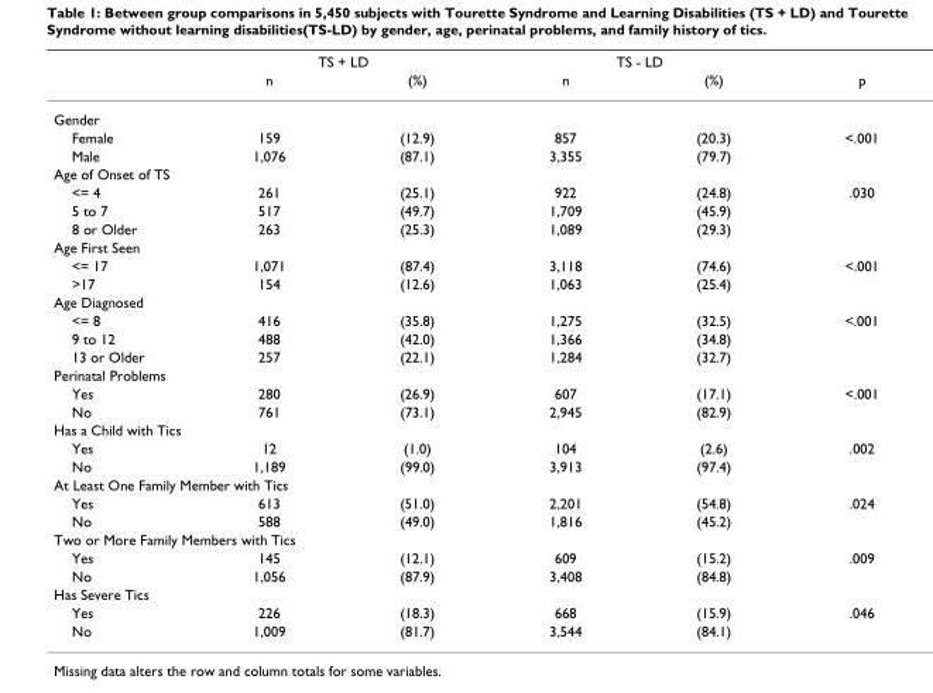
<table><thead><tr><td rowspan="2"></td><td colspan="2">TS + LD</td><td colspan="2">TS - LD</td><td rowspan="2">p</td></tr><tr><td>n</td><td>(%)</td><td>n</td><td>(%)</td></tr></thead><tbody><tr><td colspan="6">Gender</td></tr><tr><td>Female</td><td>159</td><td>(12.9)</td><td>857</td><td>(20.3)</td><td>&lt;.001</td></tr><tr><td>Male</td><td>1,076</td><td>(87.1)</td><td>3,355</td><td>(79.7)</td><td></td></tr><tr><td colspan="6">Age of Onset of TS</td></tr><tr><td>&lt;= 4</td><td>261</td><td>(25.1)</td><td>922</td><td>(24.8)</td><td>.030</td></tr><tr><td>5 to 7</td><td>517</td><td>(49.7)</td><td>1,709</td><td>(45.9)</td><td></td></tr><tr><td>8 or Older</td><td>263</td><td>(25.3)</td><td>1,089</td><td>(29.3)</td><td></td></tr><tr><td colspan="6">Age First Seen</td></tr><tr><td>&lt;= 17</td><td>1,071</td><td>(87.4)</td><td>3,118</td><td>(74.6)</td><td>&lt;.001</td></tr><tr><td>&gt;17</td><td>154</td><td>(12.6)</td><td>1,063</td><td>(25.4)</td><td></td></tr><tr><td colspan="6">Age Diagnosed</td></tr><tr><td>&lt;= 8</td><td>416</td><td>(35.8)</td><td>1,275</td><td>(32.5)</td><td>&lt;.001</td></tr><tr><td>9 to 12</td><td>488</td><td>(42.0)</td><td>1,366</td><td>(34.8)</td><td></td></tr><tr><td>13 or Older</td><td>257</td><td>(22.1)</td><td>1,284</td><td>(32.7)</td><td></td></tr><tr><td colspan="6">Perinatal Problems</td></tr><tr><td>Yes</td><td>280</td><td>(26.9)</td><td>607</td><td>(17.1)</td><td>&lt;.001</td></tr><tr><td>No</td><td>761</td><td>(73.1)</td><td>2,945</td><td>(82.9)</td><td></td></tr><tr><td colspan="6">Has a Child with Tics</td></tr><tr><td>Yes</td><td>12</td><td>(1.0)</td><td>104</td><td>(2.6)</td><td>.002</td></tr><tr><td>No</td><td>1,189</td><td>(99.0)</td><td>3,913</td><td>(97.4)</td><td></td></tr><tr><td colspan="6">At Least One Family Member with Tics</td></tr><tr><td>Yes</td><td>613</td><td>(51.0)</td><td>2,201</td><td>(54.8)</td><td>.024</td></tr><tr><td>No</td><td>588</td><td>(49.0)</td><td>1,816</td><td>(45.2)</td><td></td></tr><tr><td colspan="6">Two or More Family Members with Tics</td></tr><tr><td>Yes</td><td>145</td><td>(12.1)</td><td>609</td><td>(15.2)</td><td>.009</td></tr><tr><td>No</td><td>1,056</td><td>(87.9)</td><td>3,408</td><td>(84.8)</td><td></td></tr><tr><td colspan="6">Has Severe Tics</td></tr><tr><td>Yes</td><td>226</td><td>(18.3)</td><td>668</td><td>(15.9)</td><td>.046</td></tr><tr><td>No</td><td>1,009</td><td>(81.7)</td><td>3,544</td><td>(84.1)</td><td></td></tr></tbody></table>